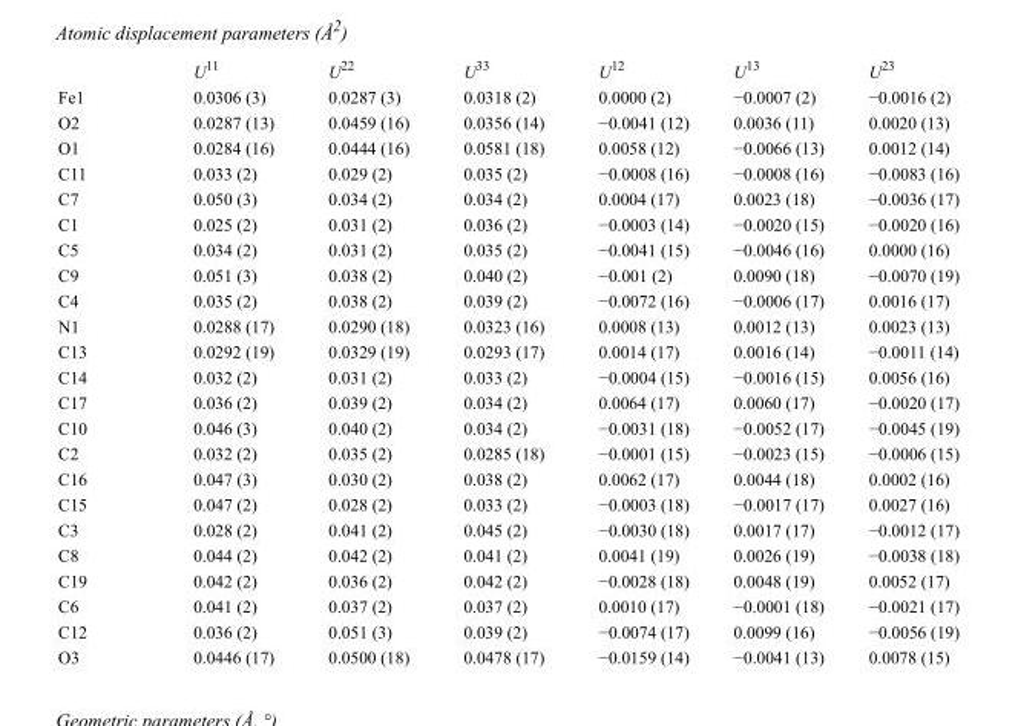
<table><thead><tr><td></td><td>U<sup>11</sup></td><td>U<sup>22</sup></td><td>U<sup>33</sup></td><td>U<sup>12</sup></td><td>U<sup>13</sup></td><td>U<sup>23</sup></td></tr></thead><tbody><tr><td>Fe1</td><td>0.0306 (3)</td><td>0.0287 (3)</td><td>0.0318 (2)</td><td>0.0000 (2)</td><td>−0.0007 (2)</td><td>−0.0016 (2)</td></tr><tr><td>O2</td><td>0.0287 (13)</td><td>0.0459 (16)</td><td>0.0356 (14)</td><td>−0.0041 (12)</td><td>0.0036 (11)</td><td>0.0020 (13)</td></tr><tr><td>O1</td><td>0.0284 (16)</td><td>0.0444 (16)</td><td>0.0581 (18)</td><td>0.0058 (12)</td><td>−0.0066 (13)</td><td>0.0012 (14)</td></tr><tr><td>C11</td><td>0.033 (2)</td><td>0.029 (2)</td><td>0.035 (2)</td><td>−0.0008 (16)</td><td>−0.0008 (16)</td><td>−0.0083 (16)</td></tr><tr><td>C7</td><td>0.050 (3)</td><td>0.034 (2)</td><td>0.034 (2)</td><td>0.0004 (17)</td><td>0.0023 (18)</td><td>−0.0036 (17)</td></tr><tr><td>C1</td><td>0.025 (2)</td><td>0.031 (2)</td><td>0.036 (2)</td><td>−0.0003 (14)</td><td>−0.0020 (15)</td><td>−0.0020 (16)</td></tr><tr><td>C5</td><td>0.034 (2)</td><td>0.031 (2)</td><td>0.035 (2)</td><td>−0.0041 (15)</td><td>−0.0046 (16)</td><td>0.0000 (16)</td></tr><tr><td>C9</td><td>0.051 (3)</td><td>0.038 (2)</td><td>0.040 (2)</td><td>−0.001 (2)</td><td>0.0090 (18)</td><td>−0.0070 (19)</td></tr><tr><td>C4</td><td>0.035 (2)</td><td>0.038 (2)</td><td>0.039 (2)</td><td>−0.0072 (16)</td><td>−0.0006 (17)</td><td>0.0016 (17)</td></tr><tr><td>N1</td><td>0.0288 (17)</td><td>0.0290 (18)</td><td>0.0323 (16)</td><td>0.0008 (13)</td><td>0.0012 (13)</td><td>0.0023 (13)</td></tr><tr><td>C13</td><td>0.0292 (19)</td><td>0.0329 (19)</td><td>0.0293 (17)</td><td>0.0014 (17)</td><td>0.0016 (14)</td><td>−0.0011 (14)</td></tr><tr><td>C14</td><td>0.032 (2)</td><td>0.031 (2)</td><td>0.033 (2)</td><td>−0.0004 (15)</td><td>−0.0016 (15)</td><td>0.0056 (16)</td></tr><tr><td>C17</td><td>0.036 (2)</td><td>0.039 (2)</td><td>0.034 (2)</td><td>0.0064 (17)</td><td>0.0060 (17)</td><td>−0.0020 (17)</td></tr><tr><td>C10</td><td>0.046 (3)</td><td>0.040 (2)</td><td>0.034 (2)</td><td>−0.0031 (18)</td><td>−0.0052 (17)</td><td>−0.0045 (19)</td></tr><tr><td>C2</td><td>0.032 (2)</td><td>0.035 (2)</td><td>0.0285 (18)</td><td>−0.0001 (15)</td><td>−0.0023 (15)</td><td>−0.0006 (15)</td></tr><tr><td>C16</td><td>0.047 (3)</td><td>0.030 (2)</td><td>0.038 (2)</td><td>0.0062 (17)</td><td>0.0044 (18)</td><td>0.0002 (16)</td></tr><tr><td>C15</td><td>0.047 (2)</td><td>0.028 (2)</td><td>0.033 (2)</td><td>−0.0003 (18)</td><td>−0.0017 (17)</td><td>0.0027 (16)</td></tr><tr><td>C3</td><td>0.028 (2)</td><td>0.041 (2)</td><td>0.045 (2)</td><td>−0.0030 (18)</td><td>0.0017 (17)</td><td>−0.0012 (17)</td></tr><tr><td>C8</td><td>0.044 (2)</td><td>0.042 (2)</td><td>0.041 (2)</td><td>0.0041 (19)</td><td>0.0026 (19)</td><td>−0.0038 (18)</td></tr><tr><td>C19</td><td>0.042 (2)</td><td>0.036 (2)</td><td>0.042 (2)</td><td>−0.0028 (18)</td><td>0.0048 (19)</td><td>0.0052 (17)</td></tr><tr><td>C6</td><td>0.041 (2)</td><td>0.037 (2)</td><td>0.037 (2)</td><td>0.0010 (17)</td><td>−0.0001 (18)</td><td>−0.0021 (17)</td></tr><tr><td>C12</td><td>0.036 (2)</td><td>0.051 (3)</td><td>0.039 (2)</td><td>−0.0074 (17)</td><td>0.0099 (16)</td><td>−0.0056 (19)</td></tr><tr><td>O3</td><td>0.0446 (17)</td><td>0.0500 (18)</td><td>0.0478 (17)</td><td>−0.0159 (14)</td><td>−0.0041 (13)</td><td>0.0078 (15)</td></tr></tbody></table>